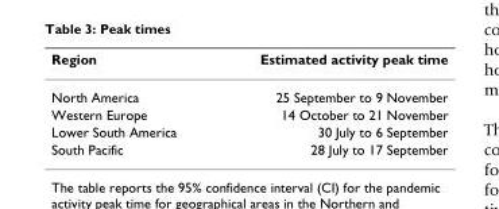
<table><thead><tr><td>Region</td><td>Estimated activity peak time</td></tr></thead><tbody><tr><td>North America</td><td>25 September to 9 November</td></tr><tr><td>Western Europe</td><td>14 October to 21 November</td></tr><tr><td>Lower South America</td><td>30 July to 6 September</td></tr><tr><td>South Pacific</td><td>28 July to 17 September</td></tr></tbody></table>